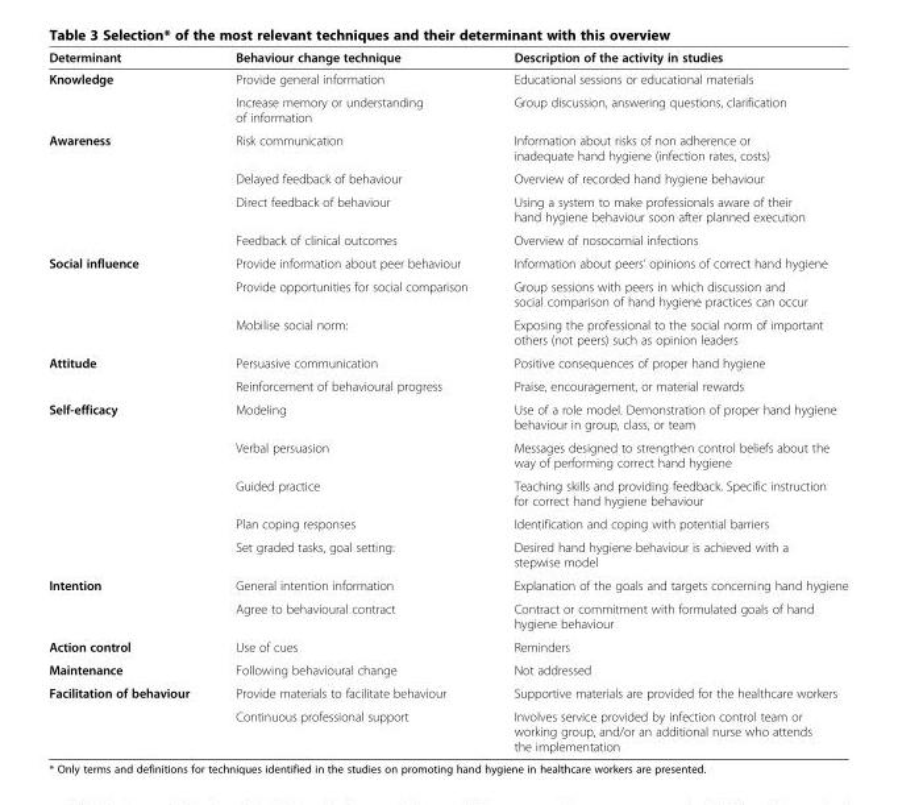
<table><thead><tr><td>Determinant</td><td>Behaviour change technique</td><td>Description of the activity in studies</td></tr></thead><tbody><tr><td rowspan="2">Knowledge</td><td>Provide general information</td><td>Educational sessions or educational materials</td></tr><tr><td>Increase memory or understanding of information</td><td>Group discussion, answering questions, clarification</td></tr><tr><td rowspan="4">Awareness</td><td>Risk communication</td><td>Information about risks of non adherence or inadequate hand hygiene (infection rates, costs)</td></tr><tr><td>Delayed feedback of behaviour</td><td>Overview of recorded hand hygiene behaviour</td></tr><tr><td>Direct feedback of behaviour</td><td>Using a system to make professionals aware of their hand hygiene behaviour soon after planned execution</td></tr><tr><td>Feedback of clinical outcomes</td><td>Overview of nosocomial infections</td></tr><tr><td rowspan="3">Social influence</td><td>Provide information about peer behaviour</td><td>Information about peers’ opinions of correct hand hygiene</td></tr><tr><td>Provide opportunities for social comparison</td><td>Group sessions with peers in which discussion and social comparison of hand hygiene practices can occur</td></tr><tr><td>Mobilise social norm:</td><td>Exposing the professional to the social norm of important others (not peers) such as opinion leaders</td></tr><tr><td rowspan="2">Attitude</td><td>Persuasive communication</td><td>Positive consequences of proper hand hygiene</td></tr><tr><td>Reinforcement of behavioural progress</td><td>Praise, encouragement, or material rewards</td></tr><tr><td rowspan="5">Self-efficacy</td><td>Modeling</td><td>Use of a role model. Demonstration of proper hand hygiene behaviour in group, class, or team</td></tr><tr><td>Verbal persuasion</td><td>Messages designed to strengthen control beliefs about the way of performing correct hand hygiene</td></tr><tr><td>Guided practice</td><td>Teaching skills and providing feedback. Specific instruction for correct hand hygiene behaviour</td></tr><tr><td>Plan coping responses</td><td>Identification and coping with potential barriers</td></tr><tr><td>Set graded tasks, goal setting:</td><td>Desired hand hygiene behaviour is achieved with a stepwise model</td></tr><tr><td rowspan="2">Intention</td><td>General intention information</td><td>Explanation of the goals and targets concerning hand hygiene</td></tr><tr><td>Agree to behavioural contract</td><td>Contract or commitment with formulated goals of hand hygiene behaviour</td></tr><tr><td>Action control</td><td>Use of cues</td><td>Reminders</td></tr><tr><td>Maintenance</td><td>Following behavioural change</td><td>Not addressed</td></tr><tr><td rowspan="2">Facilitation of behaviour</td><td>Provide materials to facilitate behaviour</td><td>Supportive materials are provided for the healthcare workers</td></tr><tr><td>Continuous professional support</td><td>Involves service provided by infection control team or working group, and/or an additional nurse who attends the implementation</td></tr></tbody></table>